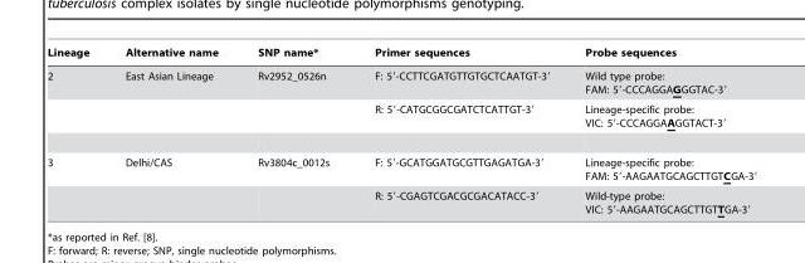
<table><thead><tr><td>Lineage</td><td>Alternative name</td><td>SNP name*</td><td>Primer sequences</td><td>Probe sequences</td></tr></thead><tbody><tr><td rowspan="2">2</td><td>East Asian Lineage</td><td>Rv2952_0526n</td><td>F: 5′-CCTTCGATGTTGTGCTCAATGT-3′</td><td>Wild type probe: FAM: 5′-CCCAGGAGGGTAC-3′</td></tr><tr><td></td><td></td><td>R: 5′-CATGCGGCGATCTCATTGT-3′</td><td>Lineage-specific probe: VIC: 5′-CCCAGGAAGGTACT-3′</td></tr><tr><td rowspan="2">3</td><td>Delhi/CAS</td><td>Rv3804c_0012s</td><td>F: 5′-GCATGGATGCGTTGAGATGA-3′</td><td>Lineage-specific probe: FAM: 5′-AAGAATGCAGCTTGTCGA-3′</td></tr><tr><td></td><td></td><td>R: 5′-CGAGTCGACGCGACATACC-3′</td><td>Wild-type probe: VIC: 5′-AAGAATGCAGCTTGTTGA-3′</td></tr></tbody></table>